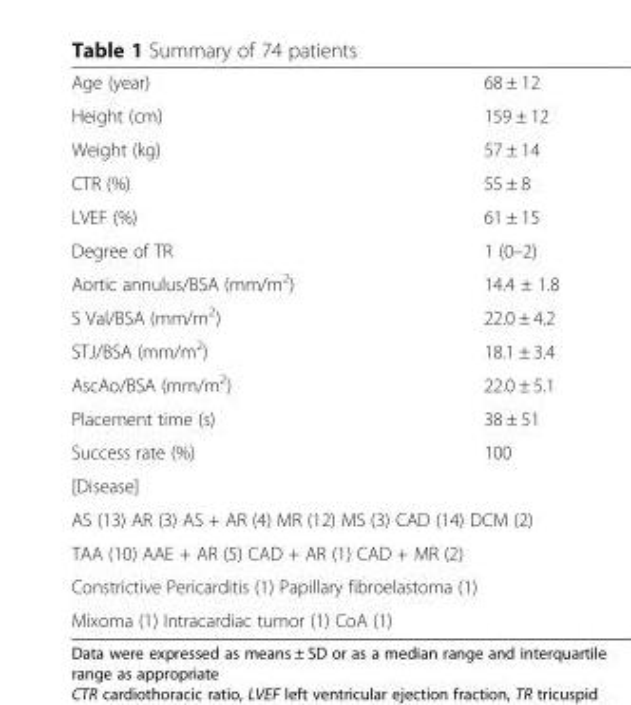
<table><tbody><tr><td>Age (year)</td><td>68 ± 12</td></tr><tr><td>Height (cm)</td><td>159 ± 12</td></tr><tr><td>Weight (kg)</td><td>57 ± 14</td></tr><tr><td>CTR (%)</td><td>55 ± 8</td></tr><tr><td>LVEF (%)</td><td>61 ± 15</td></tr><tr><td>Degree of TR</td><td>1 (0–2)</td></tr><tr><td>Aortic annulus/BSA (mm/m<sup>2</sup>)</td><td>14.4 ± 1.8</td></tr><tr><td>S Val/BSA (mm/m<sup>2</sup>)</td><td>22.0 ± 4.2</td></tr><tr><td>STJ/BSA (mm/m<sup>2</sup>)</td><td>18.1 ± 3.4</td></tr><tr><td>AscAo/BSA (mm/m<sup>2</sup>)</td><td>22.0 ± 5.1</td></tr><tr><td>Placement time (s)</td><td>38 ± 51</td></tr><tr><td>Success rate (%)</td><td>100</td></tr><tr><td colspan="2">[Disease]</td></tr><tr><td colspan="2">AS (13) AR (3) AS + AR (4) MR (12) MS (3) CAD (14) DCM (2)</td></tr><tr><td colspan="2">TAA (10) AAE + AR (5) CAD + AR (1) CAD + MR (2)</td></tr><tr><td colspan="2">Constrictive Pericarditis (1) Papillary fibroelastoma (1)</td></tr><tr><td colspan="2">Mixoma (1) Intracardiac tumor (1) CoA (1)</td></tr></tbody></table>